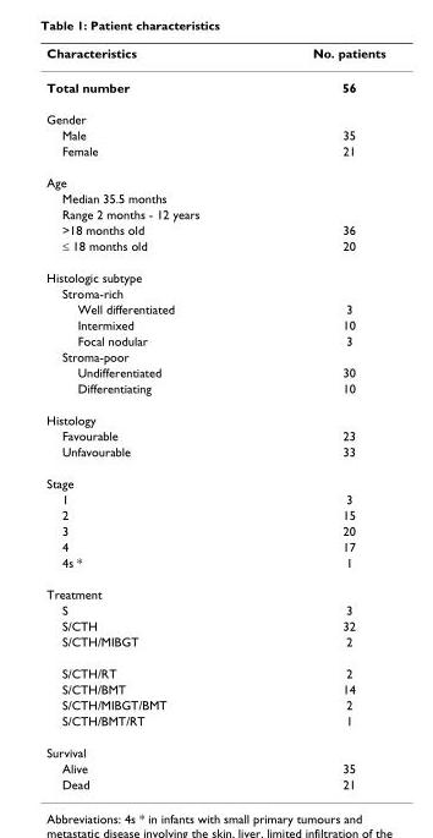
<table><thead><tr><td>Characteristics</td><td>No. patients</td></tr></thead><tbody><tr><td>Total number</td><td>56</td></tr><tr><td colspan="2">Gender</td></tr><tr><td>Male</td><td>35</td></tr><tr><td>Female</td><td>21</td></tr><tr><td colspan="2">Age</td></tr><tr><td colspan="2">Median 35.5 months</td></tr><tr><td colspan="2">Range 2 months - 12 years</td></tr><tr><td>&gt;18 months old</td><td>36</td></tr><tr><td>≤ 18 months old</td><td>20</td></tr><tr><td colspan="2">Histologic subtype</td></tr><tr><td colspan="2">Stroma-rich</td></tr><tr><td>Well differentiated</td><td>3</td></tr><tr><td>Intermixed</td><td>10</td></tr><tr><td>Focal nodular</td><td>3</td></tr><tr><td colspan="2">Stroma-poor</td></tr><tr><td>Undifferentiated</td><td>30</td></tr><tr><td>Differentiating</td><td>10</td></tr><tr><td colspan="2">Histology</td></tr><tr><td>Favourable</td><td>23</td></tr><tr><td>Unfavourable</td><td>33</td></tr><tr><td colspan="2">Stage</td></tr><tr><td>1</td><td>3</td></tr><tr><td>2</td><td>15</td></tr><tr><td>3</td><td>20</td></tr><tr><td>4</td><td>17</td></tr><tr><td>4s *</td><td>1</td></tr><tr><td colspan="2">Treatment</td></tr><tr><td>S</td><td>3</td></tr><tr><td>S/CTH</td><td>32</td></tr><tr><td>S/CTH/MIBGT</td><td>2</td></tr><tr><td>S/CTH/RT</td><td>2</td></tr><tr><td>S/CTH/BMT</td><td>14</td></tr><tr><td>S/CTH/MIBGT/BMT</td><td>2</td></tr><tr><td>S/CTH/BMT/RT</td><td>1</td></tr><tr><td colspan="2">Survival</td></tr><tr><td>Alive</td><td>35</td></tr><tr><td>Dead</td><td>21</td></tr></tbody></table>